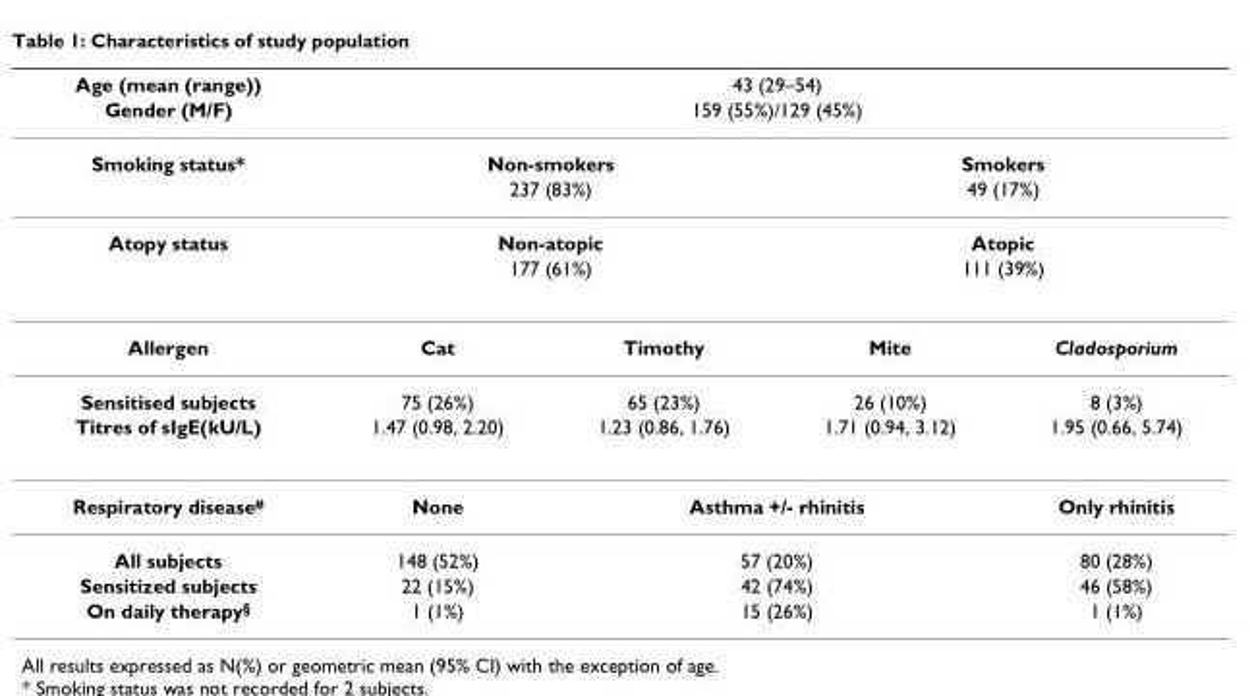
<table><thead><tr><td rowspan="2">Age (mean (range)) Gender (M/F)</td><td rowspan="2" colspan="4">43 (29–54) 159 (55%)/129 (45%)</td></tr><tr></tr></thead><tbody><tr><td rowspan="2">Smoking status*</td><td colspan="2">Non-smokers</td><td colspan="2">Smokers</td></tr><tr><td colspan="2">237 (83%)</td><td colspan="2">49 (17%)</td></tr><tr><td rowspan="2">Atopy status</td><td colspan="2">Non-atopic</td><td colspan="2">Atopic</td></tr><tr><td colspan="2">177 (61%)</td><td colspan="2">111 (39%)</td></tr><tr><td>Allergen</td><td>Cat</td><td>Timothy</td><td>Mite</td><td>Cladosporium</td></tr><tr><td>Sensitised subjects</td><td>75 (26%)</td><td>65 (23%)</td><td>26 (10%)</td><td>8 (3%)</td></tr><tr><td>Titres of sIgE(kU/L)</td><td>1.47 (0.98, 2.20)</td><td>1.23 (0.86, 1.76)</td><td>1.71 (0.94, 3.12)</td><td>1.95 (0.66, 5.74)</td></tr><tr><td>Respiratory disease<sup>#</sup></td><td>None</td><td colspan="2">Asthma +/- rhinitis</td><td>Only rhinitis</td></tr><tr><td>All subjects</td><td>148 (52%)</td><td colspan="2">57 (20%)</td><td>80 (28%)</td></tr><tr><td>Sensitized subjects</td><td>22 (15%)</td><td colspan="2">42 (74%)</td><td>46 (58%)</td></tr><tr><td>On daily therapy<sup>§</sup></td><td>1 (1%)</td><td colspan="2">15 (26%)</td><td>1 (1%)</td></tr></tbody></table>